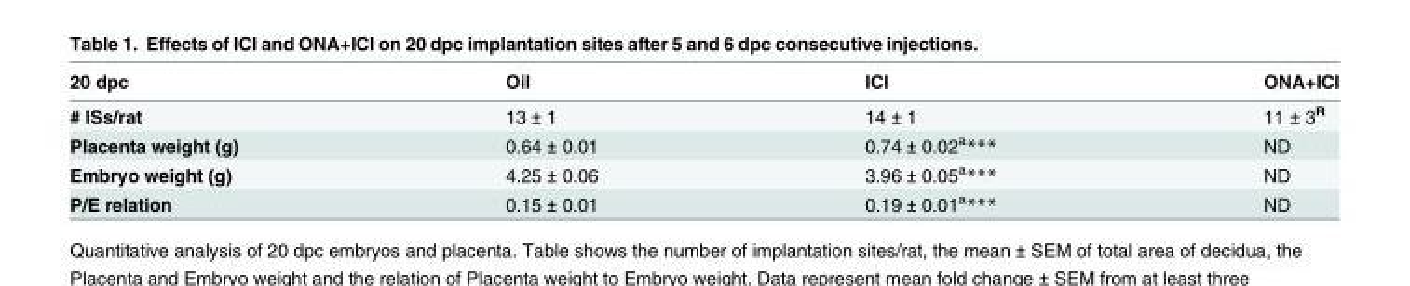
<table><thead><tr><td>20 dpc</td><td>Oil</td><td>ICI</td><td>ONA+ICI</td></tr></thead><tbody><tr><td># ISs/rat</td><td>13 ± 1</td><td>14 ± 1</td><td>11 ± 3<sup>R</sup></td></tr><tr><td>Placenta weight (g)</td><td>0.64 ± 0.01</td><td>0.74 ± 0.02<sup>a</sup>***</td><td>ND</td></tr><tr><td>Embryo weight (g)</td><td>4.25 ± 0.06</td><td>3.96 ± 0.05<sup>a</sup>***</td><td>ND</td></tr><tr><td>P/E relation</td><td>0.15 ± 0.01</td><td>0.19 ± 0.01<sup>a</sup>***</td><td>ND</td></tr></tbody></table>